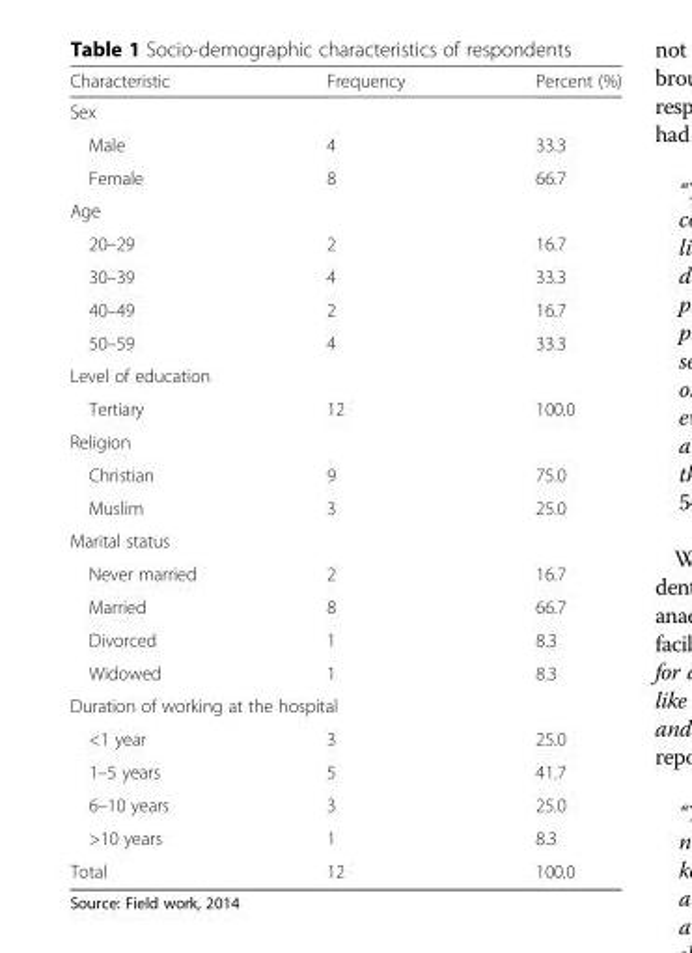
<table><thead><tr><td>Characteristic</td><td>Frequency</td><td>Percent (%)</td></tr></thead><tbody><tr><td colspan="3">Sex</td></tr><tr><td>Male</td><td>4</td><td>33.3</td></tr><tr><td>Female</td><td>8</td><td>66.7</td></tr><tr><td colspan="3">Age</td></tr><tr><td>20–29</td><td>2</td><td>16.7</td></tr><tr><td>30–39</td><td>4</td><td>33.3</td></tr><tr><td>40–49</td><td>2</td><td>16.7</td></tr><tr><td>50–59</td><td>4</td><td>33.3</td></tr><tr><td colspan="3">Level of education</td></tr><tr><td>Tertiary</td><td>12</td><td>100.0</td></tr><tr><td colspan="3">Religion</td></tr><tr><td>Christian</td><td>9</td><td>75.0</td></tr><tr><td>Muslim</td><td>3</td><td>25.0</td></tr><tr><td colspan="3">Marital status</td></tr><tr><td>Never married</td><td>2</td><td>16.7</td></tr><tr><td>Married</td><td>8</td><td>66.7</td></tr><tr><td>Divorced</td><td>1</td><td>8.3</td></tr><tr><td>Widowed</td><td>1</td><td>8.3</td></tr><tr><td colspan="3">Duration of working at the hospital</td></tr><tr><td>&lt;1 year</td><td>3</td><td>25.0</td></tr><tr><td>1–5 years</td><td>5</td><td>41.7</td></tr><tr><td>6–10 years</td><td>3</td><td>25.0</td></tr><tr><td>&gt;10 years</td><td>1</td><td>8.3</td></tr><tr><td>Total</td><td>12</td><td>100.0</td></tr></tbody></table>